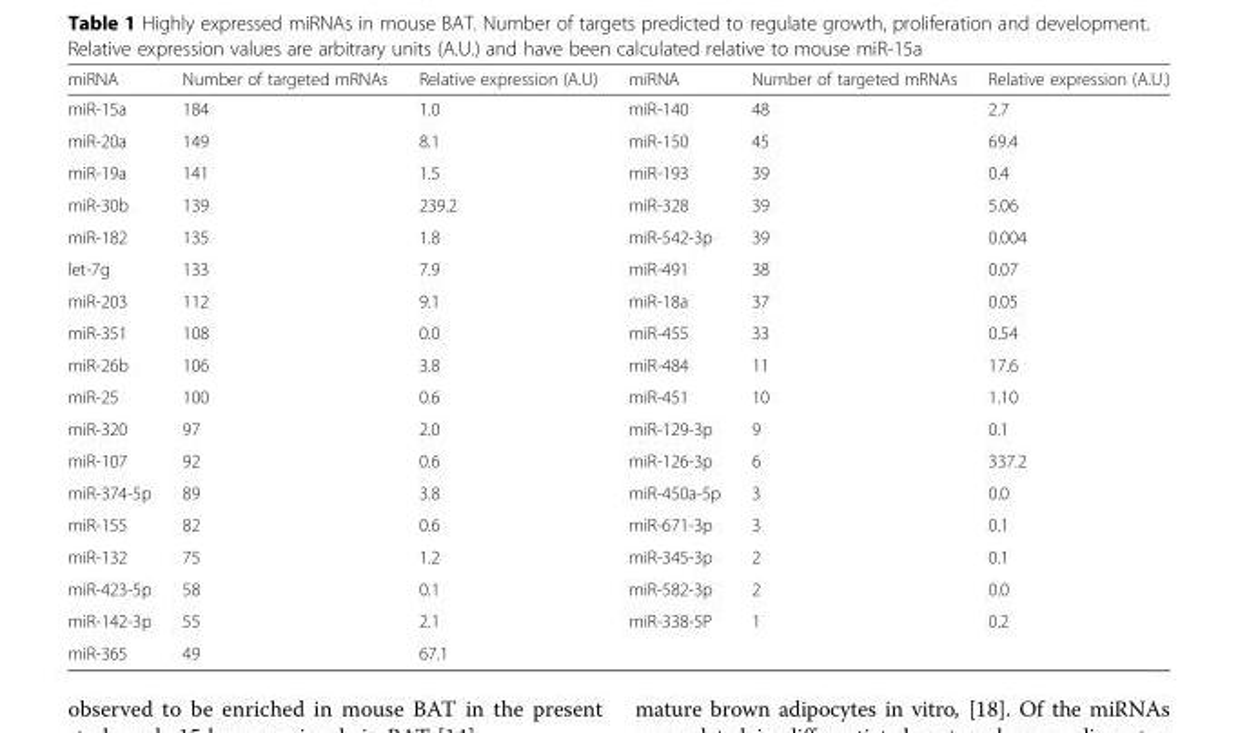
<table><thead><tr><td>miRNA</td><td>Number of targeted mRNAs</td><td>Relative expression (A.U)</td><td>miRNA</td><td>Number of targeted mRNAs</td><td>Relative expression (A.U.)</td></tr></thead><tbody><tr><td>miR-15a</td><td>184</td><td>1.0</td><td>miR-140</td><td>48</td><td>2.7</td></tr><tr><td>miR-20a</td><td>149</td><td>8.1</td><td>miR-150</td><td>45</td><td>69.4</td></tr><tr><td>miR-19a</td><td>141</td><td>1.5</td><td>miR-193</td><td>39</td><td>0.4</td></tr><tr><td>miR-30b</td><td>139</td><td>239.2</td><td>miR-328</td><td>39</td><td>5.06</td></tr><tr><td>miR-182</td><td>135</td><td>1.8</td><td>miR-542-3p</td><td>39</td><td>0.004</td></tr><tr><td>let-7g</td><td>133</td><td>7.9</td><td>miR-491</td><td>38</td><td>0.07</td></tr><tr><td>miR-203</td><td>112</td><td>9.1</td><td>miR-18a</td><td>37</td><td>0.05</td></tr><tr><td>miR-351</td><td>108</td><td>0.0</td><td>miR-455</td><td>33</td><td>0.54</td></tr><tr><td>miR-26b</td><td>106</td><td>3.8</td><td>miR-484</td><td>11</td><td>17.6</td></tr><tr><td>miR-25</td><td>100</td><td>0.6</td><td>miR-451</td><td>10</td><td>1.10</td></tr><tr><td>miR-320</td><td>97</td><td>2.0</td><td>miR-129-3p</td><td>9</td><td>0.1</td></tr><tr><td>miR-107</td><td>92</td><td>0.6</td><td>miR-126-3p</td><td>6</td><td>337.2</td></tr><tr><td>miR-374-5p</td><td>89</td><td>3.8</td><td>miR-450a-5p</td><td>3</td><td>0.0</td></tr><tr><td>miR-155</td><td>82</td><td>0.6</td><td>miR-671-3p</td><td>3</td><td>0.1</td></tr><tr><td>miR-132</td><td>75</td><td>1.2</td><td>miR-345-3p</td><td>2</td><td>0.1</td></tr><tr><td>miR-423-5p</td><td>58</td><td>0.1</td><td>miR-582-3p</td><td>2</td><td>0.0</td></tr><tr><td>miR-142-3p</td><td>55</td><td>2.1</td><td>miR-338-5P</td><td>1</td><td>0.2</td></tr><tr><td>miR-365</td><td>49</td><td>67.1</td><td></td><td></td><td></td></tr></tbody></table>